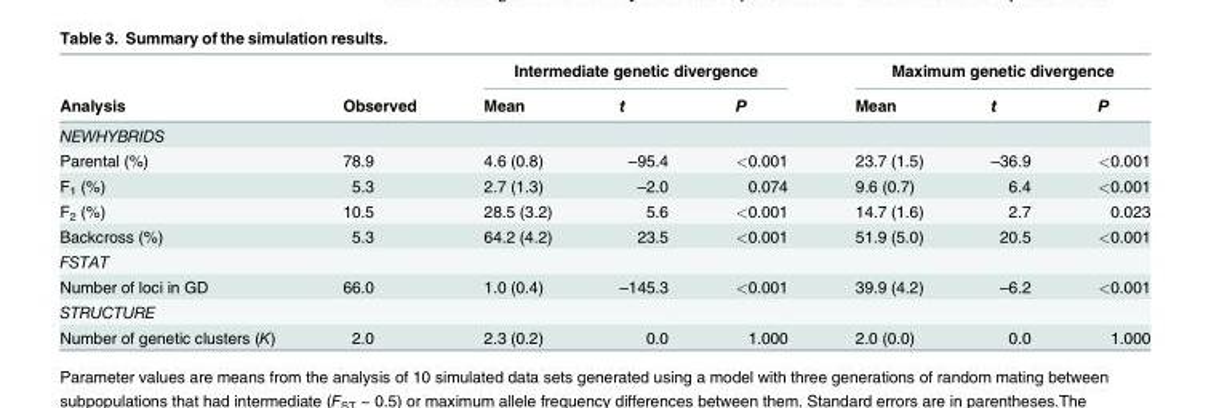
<table><thead><tr><td rowspan="2">Analysis</td><td rowspan="2">Observed</td><td colspan="3">Intermediate genetic divergence</td><td colspan="3">Maximum genetic divergence</td></tr><tr><td>Mean</td><td>t</td><td>P</td><td>Mean</td><td>t</td><td>P</td></tr></thead><tbody><tr><td colspan="8">NEWHYBRIDS</td></tr><tr><td>Parental (%)</td><td>78.9</td><td>4.6 (0.8)</td><td>–95.4</td><td>&lt;0.001</td><td>23.7 (1.5)</td><td>–36.9</td><td>&lt;0.001</td></tr><tr><td>F<sub>1</sub> (%)</td><td>5.3</td><td>2.7 (1.3)</td><td>–2.0</td><td>0.074</td><td>9.6 (0.7)</td><td>6.4</td><td>&lt;0.001</td></tr><tr><td>F<sub>2</sub> (%)</td><td>10.5</td><td>28.5 (3.2)</td><td>5.6</td><td>&lt;0.001</td><td>14.7 (1.6)</td><td>2.7</td><td>0.023</td></tr><tr><td>Backcross (%)</td><td>5.3</td><td>64.2 (4.2)</td><td>23.5</td><td>&lt;0.001</td><td>51.9 (5.0)</td><td>20.5</td><td>&lt;0.001</td></tr><tr><td colspan="8">FSTAT</td></tr><tr><td>Number of loci in GD</td><td>66.0</td><td>1.0 (0.4)</td><td>–145.3</td><td>&lt;0.001</td><td>39.9 (4.2)</td><td>–6.2</td><td>&lt;0.001</td></tr><tr><td colspan="8">STRUCTURE</td></tr><tr><td>Number of genetic clusters (K)</td><td>2.0</td><td>2.3 (0.2)</td><td>0.0</td><td>1.000</td><td>2.0 (0.0)</td><td>0.0</td><td>1.000</td></tr></tbody></table>